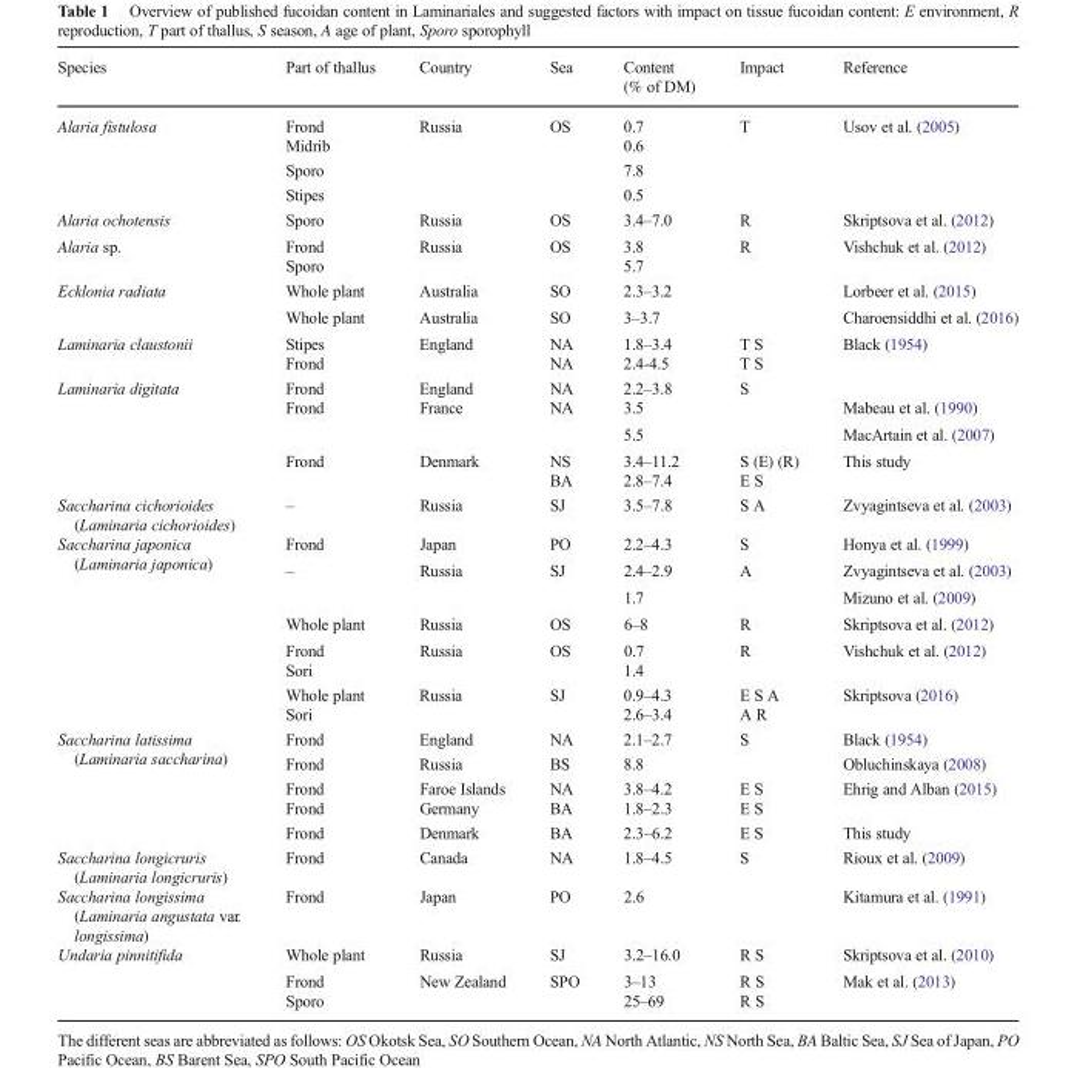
<table><thead><tr><td>Species</td><td>Part of thallus</td><td>Country</td><td>Sea</td><td>Content (% of DM)</td><td>Impact</td><td>Reference</td></tr></thead><tbody><tr><td rowspan="4">Alaria fistulosa</td><td>Frond</td><td rowspan="4">Russia</td><td rowspan="4">OS</td><td>0.7</td><td rowspan="4">T</td><td rowspan="4">Usov et al. (2005)</td></tr><tr><td>Midrib</td><td>0.6</td></tr><tr><td>Sporo</td><td>7.8</td></tr><tr><td>Stipes</td><td>0.5</td></tr><tr><td>Alaria ochotensis</td><td>Sporo</td><td>Russia</td><td>OS</td><td>3.4–7.0</td><td>R</td><td>Skriptsova et al. (2012)</td></tr><tr><td rowspan="2">Alaria sp.</td><td>Frond</td><td rowspan="2">Russia</td><td rowspan="2">OS</td><td>3.8</td><td rowspan="2">R</td><td rowspan="2">Vishchuk et al. (2012)</td></tr><tr><td>Sporo</td><td>5.7</td></tr><tr><td rowspan="2">Ecklonia radiata</td><td>Whole plant</td><td>Australia</td><td>SO</td><td>2.3–3.2</td><td rowspan="2"></td><td>Lorbeer et al. (2015)</td></tr><tr><td>Whole plant</td><td>Australia</td><td>SO</td><td>3–3.7</td><td>Charoensiddhi et al. (2016)</td></tr><tr><td rowspan="2">Laminaria claustonii</td><td>Stipes</td><td rowspan="2">England</td><td>NA</td><td>1.8–3.4</td><td>T S</td><td rowspan="3">Black (1954)</td></tr><tr><td>Frond</td><td>NA</td><td>2.4-4.5</td><td>T S</td></tr><tr><td rowspan="5">Laminaria digitata</td><td>Frond</td><td>England</td><td>NA</td><td>2.2–3.8</td><td rowspan="3">S</td></tr><tr><td rowspan="2">Frond</td><td rowspan="2">France</td><td rowspan="2">NA</td><td>3.5</td><td>Mabeau et al. (1990)</td></tr><tr><td>5.5</td><td>MacArtain et al. (2007)</td></tr><tr><td rowspan="2">Frond</td><td rowspan="2">Denmark</td><td>NS</td><td>3.4–11.2</td><td>S (E) (R)</td><td rowspan="2">This study</td></tr><tr><td>BA</td><td>2.8–7.4</td><td>E S</td></tr><tr><td>Saccharina cichorioides (Laminaria cichorioides)</td><td>–</td><td>Russia</td><td>SJ</td><td>3.5–7.8</td><td>S A</td><td>Zvyagintseva et al. (2003)</td></tr><tr><td rowspan="8">Saccharina japonica (Laminaria japonica)</td><td>Frond</td><td>Japan</td><td>PO</td><td>2.2–4.3</td><td>S</td><td>Honya et al. (1999)</td></tr><tr><td rowspan="2">–</td><td rowspan="2">Russia</td><td rowspan="2">SJ</td><td>2.4–2.9</td><td rowspan="2">A</td><td>Zvyagintseva et al. (2003)</td></tr><tr><td>1.7</td><td>Mizuno et al. (2009)</td></tr><tr><td>Whole plant</td><td>Russia</td><td>OS</td><td>6–8</td><td>R</td><td>Skriptsova et al. (2012)</td></tr><tr><td>Frond</td><td rowspan="2">Russia</td><td rowspan="2">OS</td><td>0.7</td><td rowspan="2">R</td><td rowspan="2">Vishchuk et al. (2012)</td></tr><tr><td>Sori</td><td>1.4</td></tr><tr><td>Whole plant</td><td rowspan="2">Russia</td><td rowspan="2">SJ</td><td>0.9–4.3</td><td>E S A</td><td rowspan="2">Skriptsova (2016)</td></tr><tr><td>Sori</td><td>2.6–3.4</td><td>A R</td></tr><tr><td rowspan="5">Saccharina latissima (Laminaria saccharina)</td><td>Frond</td><td>England</td><td>NA</td><td>2.1–2.7</td><td rowspan="2">S</td><td>Black (1954)</td></tr><tr><td>Frond</td><td>Russia</td><td>BS</td><td>8.8</td><td>Obluchinskaya (2008)</td></tr><tr><td>Frond</td><td>Faroe Islands</td><td>NA</td><td>3.8–4.2</td><td>E S</td><td rowspan="2">Ehrig and Alban (2015)</td></tr><tr><td>Frond</td><td>Germany</td><td>BA</td><td>1.8–2.3</td><td>E S</td></tr><tr><td>Frond</td><td>Denmark</td><td>BA</td><td>2.3–6.2</td><td>E S</td><td>This study</td></tr><tr><td>Saccharina longicruris (Laminaria longicruris)</td><td>Frond</td><td>Canada</td><td>NA</td><td>1.8–4.5</td><td>S</td><td>Rioux et al. (2009)</td></tr><tr><td>Saccharina longissima (Laminaria angustata var. longissima)</td><td>Frond</td><td>Japan</td><td>PO</td><td>2.6</td><td></td><td>Kitamura et al. (1991)</td></tr><tr><td rowspan="3">Undaria pinnitifida</td><td>Whole plant</td><td>Russia</td><td>SJ</td><td>3.2–16.0</td><td>R S</td><td>Skriptsova et al. (2010)</td></tr><tr><td>Frond</td><td rowspan="2">New Zealand</td><td rowspan="2">SPO</td><td>3–13</td><td>R S</td><td rowspan="2">Mak et al. (2013)</td></tr><tr><td>Sporo</td><td>25–69</td><td>R S</td></tr></tbody></table>